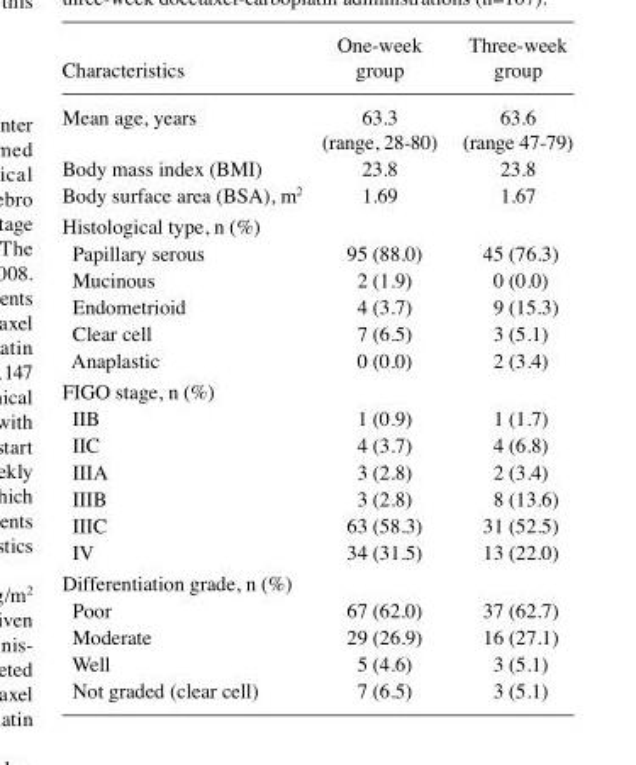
<table><thead><tr><td>Characteristics</td><td>group</td><td>group</td></tr></thead><tbody><tr><td>Mean age, years</td><td>63.3 (range, 28-80)</td><td>63.6 (range 47-79)</td></tr><tr><td>Body mass index (BMI)</td><td>23.8</td><td>23.8</td></tr><tr><td>Body surface area (BSA), m<sup>2</sup></td><td>1.69</td><td>1.67</td></tr><tr><td colspan="3">Histological type, n (%)</td></tr><tr><td>Papillary serous</td><td>95 (88.0)</td><td>45 (76.3)</td></tr><tr><td>Mucinous</td><td>2 (1.9)</td><td>0 (0.0)</td></tr><tr><td>Endometrioid</td><td>4 (3.7)</td><td>9 (15.3)</td></tr><tr><td>Clear cell</td><td>7 (6.5)</td><td>3 (5.1)</td></tr><tr><td>Anaplastic</td><td>0 (0.0)</td><td>2 (3.4)</td></tr><tr><td colspan="3">FIGO stage, n (%)</td></tr><tr><td>IIB</td><td>1 (0.9)</td><td>1 (1.7)</td></tr><tr><td>IIC</td><td>4 (3.7)</td><td>4 (6.8)</td></tr><tr><td>IIIA</td><td>3 (2.8)</td><td>2 (3.4)</td></tr><tr><td>IIIB</td><td>3 (2.8)</td><td>8 (13.6)</td></tr><tr><td>IIIC</td><td>63 (58.3)</td><td>31 (52.5)</td></tr><tr><td>IV</td><td>34 (31.5)</td><td>13 (22.0)</td></tr><tr><td colspan="3">Differentiation grade, n (%)</td></tr><tr><td>Poor</td><td>67 (62.0)</td><td>37 (62.7)</td></tr><tr><td>Moderate</td><td>29 (26.9)</td><td>16 (27.1)</td></tr><tr><td>Well</td><td>5 (4.6)</td><td>3 (5.1)</td></tr><tr><td>Not graded (clear cell)</td><td>7 (6.5)</td><td>3 (5.1)</td></tr></tbody></table>